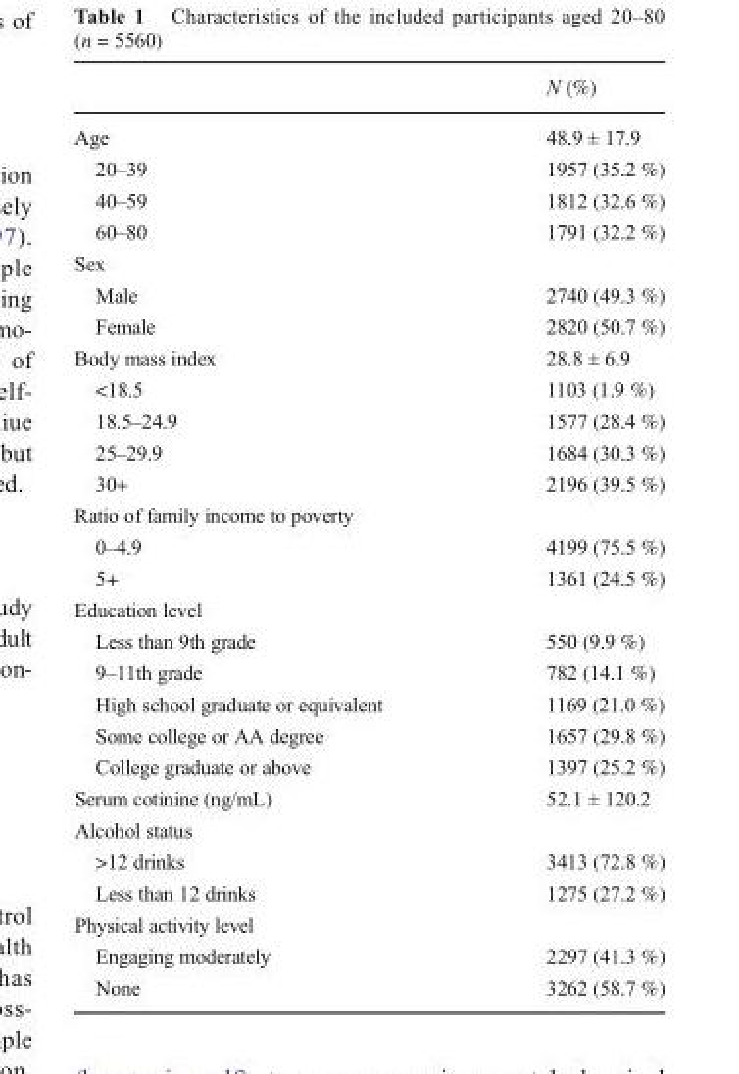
<table><thead><tr><td></td><td>N (%)</td></tr></thead><tbody><tr><td>Age</td><td>48.9 ± 17.9</td></tr><tr><td>20–39</td><td>1957 (35.2 %)</td></tr><tr><td>40–59</td><td>1812 (32.6 %)</td></tr><tr><td>60–80</td><td>1791 (32.2 %)</td></tr><tr><td colspan="2">Sex</td></tr><tr><td>Male</td><td>2740 (49.3 %)</td></tr><tr><td>Female</td><td>2820 (50.7 %)</td></tr><tr><td>Body mass index</td><td>28.8 ± 6.9</td></tr><tr><td>&lt;18.5</td><td>1103 (1.9 %)</td></tr><tr><td>18.5–24.9</td><td>1577 (28.4 %)</td></tr><tr><td>25–29.9</td><td>1684 (30.3 %)</td></tr><tr><td>30+</td><td>2196 (39.5 %)</td></tr><tr><td colspan="2">Ratio of family income to poverty</td></tr><tr><td>0–4.9</td><td>4199 (75.5 %)</td></tr><tr><td>5+</td><td>1361 (24.5 %)</td></tr><tr><td colspan="2">Education level</td></tr><tr><td>Less than 9th grade</td><td>550 (9.9 %)</td></tr><tr><td>9–11th grade</td><td>782 (14.1 %)</td></tr><tr><td>High school graduate or equivalent</td><td>1169 (21.0 %)</td></tr><tr><td>Some college or AA degree</td><td>1657 (29.8 %)</td></tr><tr><td>College graduate or above</td><td>1397 (25.2 %)</td></tr><tr><td>Serum cotinine (ng/mL)</td><td>52.1 ± 120.2</td></tr><tr><td colspan="2">Alcohol status</td></tr><tr><td>&gt;12 drinks</td><td>3413 (72.8 %)</td></tr><tr><td>Less than 12 drinks</td><td>1275 (27.2 %)</td></tr><tr><td colspan="2">Physical activity level</td></tr><tr><td>Engaging moderately</td><td>2297 (41.3 %)</td></tr><tr><td>None</td><td>3262 (58.7 %)</td></tr></tbody></table>